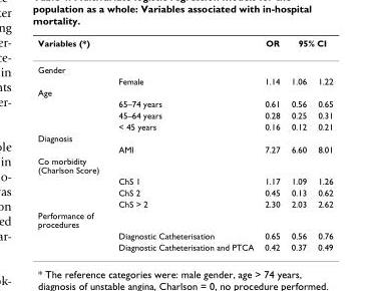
<table><thead><tr><td rowspan="2">Variables (*) Gender</td><td rowspan="2"></td><td rowspan="2">OR</td><td colspan="2">95% CI</td></tr><tr><td></td><td></td></tr></thead><tbody><tr><td></td><td>Female</td><td>1.14</td><td>1.06</td><td>1.22</td></tr><tr><td colspan="5">Age</td></tr><tr><td></td><td>65–74 years</td><td>0.61</td><td>0.56</td><td>0.65</td></tr><tr><td></td><td>45–64 years</td><td>0.28</td><td>0.25</td><td>0.31</td></tr><tr><td></td><td>&lt; 45 years</td><td>0.16</td><td>0.12</td><td>0.21</td></tr><tr><td colspan="5">Diagnosis</td></tr><tr><td></td><td>AMI</td><td>7.27</td><td>6.60</td><td>8.01</td></tr><tr><td colspan="5">Co morbidity (Charlson Score)</td></tr><tr><td></td><td>ChS 1</td><td>1.17</td><td>1.09</td><td>1.26</td></tr><tr><td></td><td>ChS 2</td><td>0.45</td><td>0.13</td><td>0.62</td></tr><tr><td></td><td>ChS &gt; 2</td><td>2.30</td><td>2.03</td><td>2.62</td></tr><tr><td colspan="5">Performance of procedures</td></tr><tr><td></td><td>Diagnostic Catheterisation</td><td>0.65</td><td>0.56</td><td>0.76</td></tr><tr><td></td><td>Diagnostic Catheterisation and PTCA</td><td>0.42</td><td>0.37</td><td>0.49</td></tr></tbody></table>